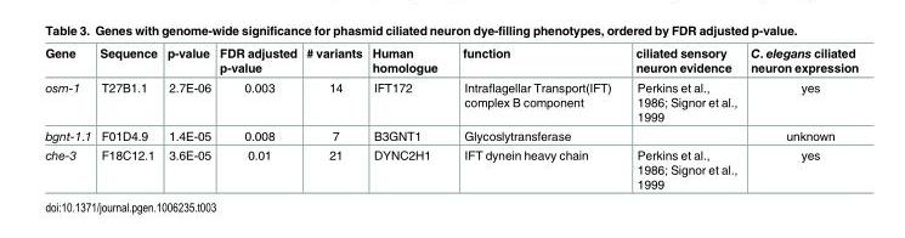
<table><thead><tr><td>Gene</td><td>Sequence</td><td>p-value</td><td>FDR adjusted p-value</td><td># variants</td><td>Human homologue</td><td>function</td><td>ciliated sensory neuron evidence</td><td>C. elegans ciliated neuron expression</td></tr></thead><tbody><tr><td>osm-1</td><td>T27B1.1</td><td>2.7E-06</td><td>0.003</td><td>14</td><td>IFT172</td><td>Intraflagellar Transport(IFT) complex B component</td><td>Perkins et al., 1986; Signor et al., 1999</td><td>yes</td></tr><tr><td>bgnt-1.1</td><td>F01D4.9</td><td>1.4E-05</td><td>0.008</td><td>7</td><td>B3GNT1</td><td>Glycoslytransferase</td><td></td><td>unknown</td></tr><tr><td>che-3</td><td>F18C12.1</td><td>3.6E-05</td><td>0.01</td><td>21</td><td>DYNC2H1</td><td>IFT dynein heavy chain</td><td>Perkins et al., 1986; Signor et al., 1999</td><td>yes</td></tr></tbody></table>